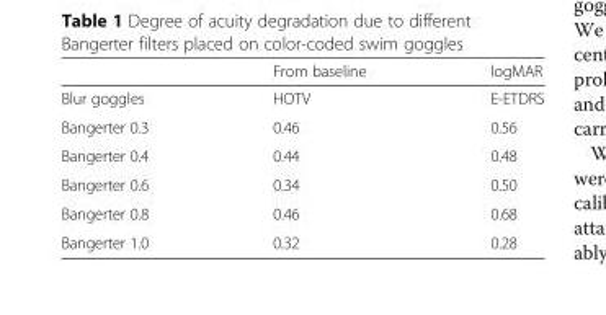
<table><thead><tr><td></td><td>From baseline</td><td>logMAR</td></tr></thead><tbody><tr><td>Blur goggles</td><td>HOTV</td><td>E-ETDRS</td></tr><tr><td>Bangerter 0.3</td><td>0.46</td><td>0.56</td></tr><tr><td>Bangerter 0.4</td><td>0.44</td><td>0.48</td></tr><tr><td>Bangerter 0.6</td><td>0.34</td><td>0.50</td></tr><tr><td>Bangerter 0.8</td><td>0.46</td><td>0.68</td></tr><tr><td>Bangerter 1.0</td><td>0.32</td><td>0.28</td></tr></tbody></table>